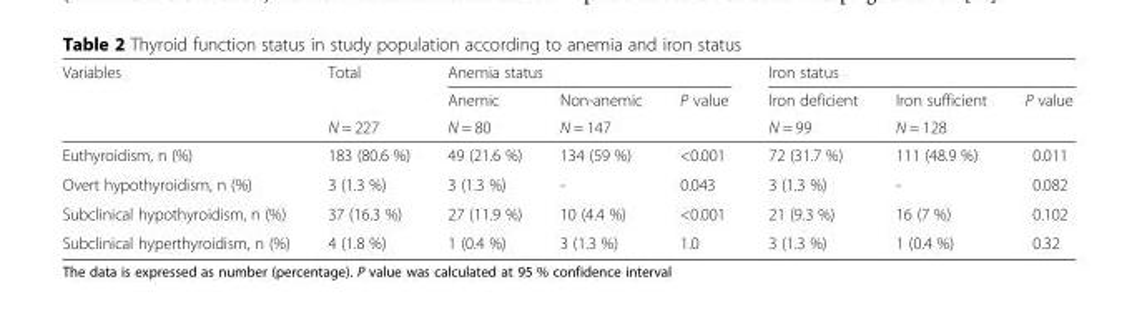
<table><thead><tr><td rowspan="3">Variables</td><td rowspan="3">Total N = 227</td><td colspan="3">Anemia status</td><td colspan="3">Iron status</td></tr><tr><td rowspan="2">Anemic N = 80</td><td rowspan="2">Non-anemic N = 147</td><td rowspan="2">P value</td><td rowspan="2">Iron deficient N = 99</td><td rowspan="2">Iron sufficient N = 128</td><td rowspan="2">P value</td></tr><tr></tr></thead><tbody><tr><td>Euthyroidism, n (%)</td><td>183 (80.6 %)</td><td>49 (21.6 %)</td><td>134 (59 %)</td><td>&lt;0.001</td><td>72 (31.7 %)</td><td>111 (48.9 %)</td><td>0.011</td></tr><tr><td>Overt hypothyroidism, n (%)</td><td>3 (1.3 %)</td><td>3 (1.3 %)</td><td>-</td><td>0.043</td><td>3 (1.3 %)</td><td>-</td><td>0.082</td></tr><tr><td>Subclinical hypothyroidism, n (%)</td><td>37 (16.3 %)</td><td>27 (11.9 %)</td><td>10 (4.4 %)</td><td>&lt;0.001</td><td>21 (9.3 %)</td><td>16 (7 %)</td><td>0.102</td></tr><tr><td>Subclinical hyperthyroidism, n (%)</td><td>4 (1.8 %)</td><td>1 (0.4 %)</td><td>3 (1.3 %)</td><td>1.0</td><td>3 (1.3 %)</td><td>1 (0.4 %)</td><td>0.32</td></tr></tbody></table>